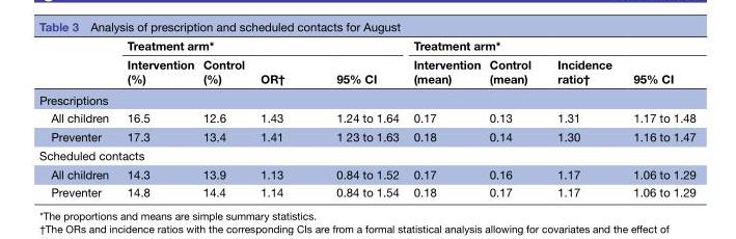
<table><thead><tr><td rowspan="2"></td><td colspan="4">Treatment arm*</td><td colspan="4">Treatment arm*</td></tr><tr><td>Intervention (%)</td><td>Control (%)</td><td>OR†</td><td>95% CI</td><td>Intervention (mean)</td><td>Control (mean)</td><td>Incidence ratio†</td><td>95% CI</td></tr></thead><tbody><tr><td colspan="9">Prescriptions</td></tr><tr><td>All children</td><td>16.5</td><td>12.6</td><td>1.43</td><td>1.24 to 1.64</td><td>0.17</td><td>0.13</td><td>1.31</td><td>1.17 to 1.48</td></tr><tr><td>Preventer</td><td>17.3</td><td>13.4</td><td>1.41</td><td>1 23 to 1.63</td><td>0.18</td><td>0.14</td><td>1.30</td><td>1.16 to 1.47</td></tr><tr><td colspan="9">Scheduled contacts</td></tr><tr><td>All children</td><td>14.3</td><td>13.9</td><td>1.13</td><td>0.84 to 1.52</td><td>0.17</td><td>0.16</td><td>1.17</td><td>1.06 to 1.29</td></tr><tr><td>Preventer</td><td>14.8</td><td>14.4</td><td>1.14</td><td>0.84 to 1.54</td><td>0.18</td><td>0.17</td><td>1.17</td><td>1.06 to 1.29</td></tr></tbody></table>